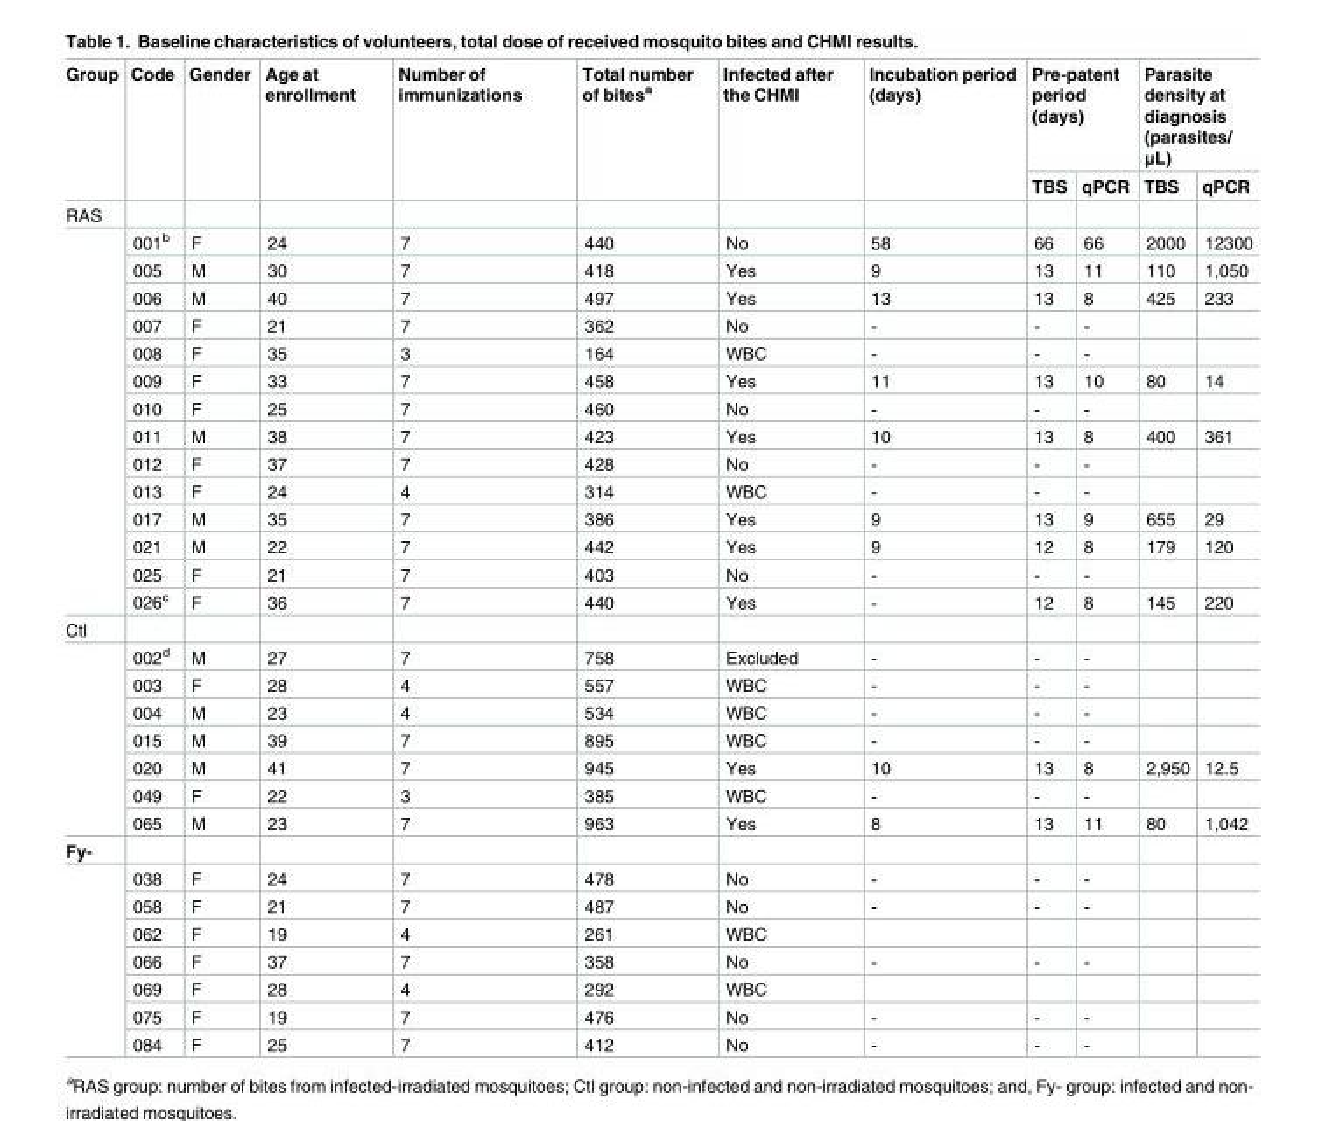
<table><thead><tr><td rowspan="2">Group</td><td rowspan="2">Code</td><td rowspan="2">Gender</td><td rowspan="2">Age at enrollment</td><td rowspan="2">Number of immunizations</td><td rowspan="2">Total number of bites<sup>a</sup></td><td rowspan="2">Infected after the CHMI</td><td rowspan="2">Incubation period (days)</td><td colspan="2">Pre-patent period (days)</td><td colspan="2">Parasite density at diagnosis (parasites/ μL)</td></tr><tr><td>TBS</td><td>qPCR</td><td>TBS</td><td>qPCR</td></tr></thead><tbody><tr><td colspan="12">RAS</td></tr><tr><td rowspan="14"></td><td>001<sup>b</sup></td><td>F</td><td>24</td><td>7</td><td>440</td><td>No</td><td>58</td><td>66</td><td>66</td><td>2000</td><td>12300</td></tr><tr><td>005</td><td>M</td><td>30</td><td>7</td><td>418</td><td>Yes</td><td>9</td><td>13</td><td>11</td><td>110</td><td>1,050</td></tr><tr><td>006</td><td>M</td><td>40</td><td>7</td><td>497</td><td>Yes</td><td>13</td><td>13</td><td>8</td><td>425</td><td>233</td></tr><tr><td>007</td><td>F</td><td>21</td><td>7</td><td>362</td><td>No</td><td>-</td><td>-</td><td>-</td><td></td><td></td></tr><tr><td>008</td><td>F</td><td>35</td><td>3</td><td>164</td><td>WBC</td><td>-</td><td>-</td><td>-</td><td></td><td></td></tr><tr><td>009</td><td>F</td><td>33</td><td>7</td><td>458</td><td>Yes</td><td>11</td><td>13</td><td>10</td><td>80</td><td>14</td></tr><tr><td>010</td><td>F</td><td>25</td><td>7</td><td>460</td><td>No</td><td>-</td><td>-</td><td>-</td><td></td><td></td></tr><tr><td>011</td><td>M</td><td>38</td><td>7</td><td>423</td><td>Yes</td><td>10</td><td>13</td><td>8</td><td>400</td><td>361</td></tr><tr><td>012</td><td>F</td><td>37</td><td>7</td><td>428</td><td>No</td><td>-</td><td>-</td><td>-</td><td></td><td></td></tr><tr><td>013</td><td>F</td><td>24</td><td>4</td><td>314</td><td>WBC</td><td>-</td><td>-</td><td>-</td><td></td><td></td></tr><tr><td>017</td><td>M</td><td>35</td><td>7</td><td>386</td><td>Yes</td><td>9</td><td>13</td><td>9</td><td>655</td><td>29</td></tr><tr><td>021</td><td>M</td><td>22</td><td>7</td><td>442</td><td>Yes</td><td>9</td><td>12</td><td>8</td><td>179</td><td>120</td></tr><tr><td>025</td><td>F</td><td>21</td><td>7</td><td>403</td><td>No</td><td>-</td><td>-</td><td>-</td><td></td><td></td></tr><tr><td>026<sup>c</sup></td><td>F</td><td>36</td><td>7</td><td>440</td><td>Yes</td><td>-</td><td>12</td><td>8</td><td>145</td><td>220</td></tr><tr><td colspan="12">Ctl</td></tr><tr><td rowspan="7"></td><td>002<sup>d</sup></td><td>M</td><td>27</td><td>7</td><td>758</td><td>Excluded</td><td>-</td><td>-</td><td>-</td><td></td><td></td></tr><tr><td>003</td><td>F</td><td>28</td><td>4</td><td>557</td><td>WBC</td><td>-</td><td>-</td><td>-</td><td></td><td></td></tr><tr><td>004</td><td>M</td><td>23</td><td>4</td><td>534</td><td>WBC</td><td>-</td><td>-</td><td>-</td><td></td><td></td></tr><tr><td>015</td><td>M</td><td>39</td><td>7</td><td>895</td><td>WBC</td><td>-</td><td>-</td><td>-</td><td></td><td></td></tr><tr><td>020</td><td>M</td><td>41</td><td>7</td><td>945</td><td>Yes</td><td>10</td><td>13</td><td>8</td><td>2,950</td><td>12.5</td></tr><tr><td>049</td><td>F</td><td>22</td><td>3</td><td>385</td><td>WBC</td><td>-</td><td>-</td><td>-</td><td></td><td></td></tr><tr><td>065</td><td>M</td><td>23</td><td>7</td><td>963</td><td>Yes</td><td>8</td><td>13</td><td>11</td><td>80</td><td>1,042</td></tr><tr><td colspan="12">Fy-</td></tr><tr><td rowspan="7"></td><td>038</td><td>F</td><td>24</td><td>7</td><td>478</td><td>No</td><td>-</td><td>-</td><td>-</td><td></td><td></td></tr><tr><td>058</td><td>F</td><td>21</td><td>7</td><td>487</td><td>No</td><td>-</td><td>-</td><td>-</td><td></td><td></td></tr><tr><td>062</td><td>F</td><td>19</td><td>4</td><td>261</td><td>WBC</td><td></td><td></td><td></td><td></td><td></td></tr><tr><td>066</td><td>F</td><td>37</td><td>7</td><td>358</td><td>No</td><td>-</td><td>-</td><td>-</td><td></td><td></td></tr><tr><td>069</td><td>F</td><td>28</td><td>4</td><td>292</td><td>WBC</td><td></td><td></td><td></td><td></td><td></td></tr><tr><td>075</td><td>F</td><td>19</td><td>7</td><td>476</td><td>No</td><td>-</td><td>-</td><td>-</td><td></td><td></td></tr><tr><td>084</td><td>F</td><td>25</td><td>7</td><td>412</td><td>No</td><td>-</td><td>-</td><td>-</td><td></td><td></td></tr></tbody></table>